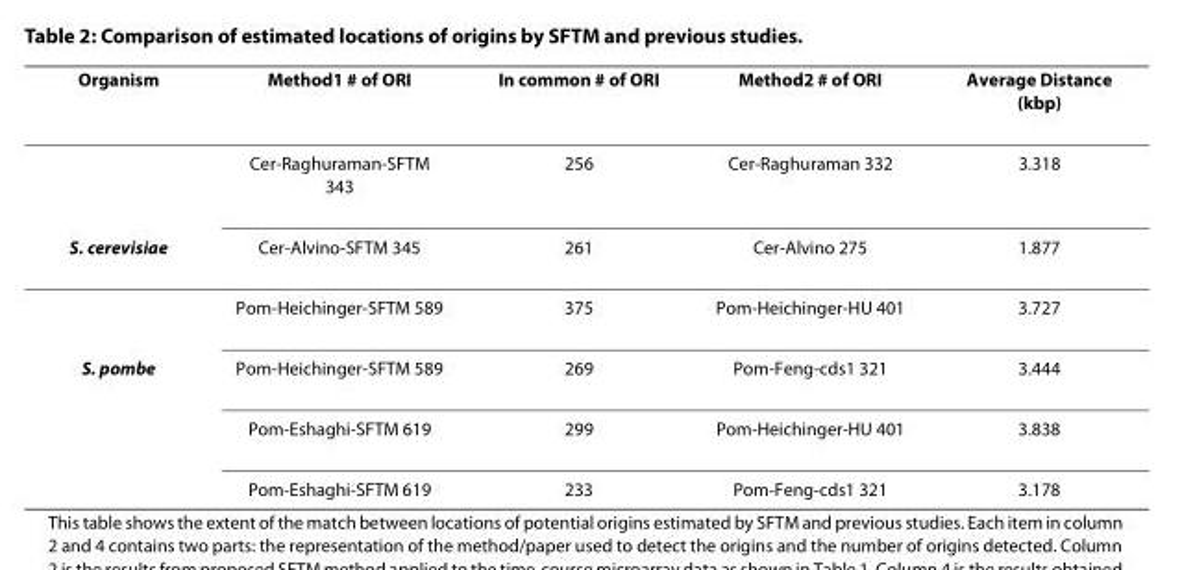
<table><thead><tr><td>Organism</td><td>Method1 # of ORI</td><td>In common # of ORI</td><td>Method2 # of ORI</td><td>Average Distance (kbp)</td></tr></thead><tbody><tr><td></td><td>Cer-Raghuraman-SFTM 343</td><td>256</td><td>Cer-Raghuraman 332</td><td>3.318</td></tr><tr><td rowspan="2">S. cerevisiae</td><td>Cer-Alvino-SFTM 345</td><td>261</td><td>Cer-Alvino 275</td><td>1.877</td></tr><tr><td>Pom-Heichinger-SFTM 589</td><td>375</td><td>Pom-Heichinger-HU 401</td><td>3.727</td></tr><tr><td rowspan="3">S. pombe</td><td>Pom-Heichinger-SFTM 589</td><td>269</td><td>Pom-Feng-cds1 321</td><td>3.444</td></tr><tr><td>Pom-Eshaghi-SFTM 619</td><td>299</td><td>Pom-Heichinger-HU 401</td><td>3.838</td></tr><tr><td>Pom-Eshaghi-SFTM 619</td><td>233</td><td>Pom-Feng-cds1 321</td><td>3.178</td></tr></tbody></table>